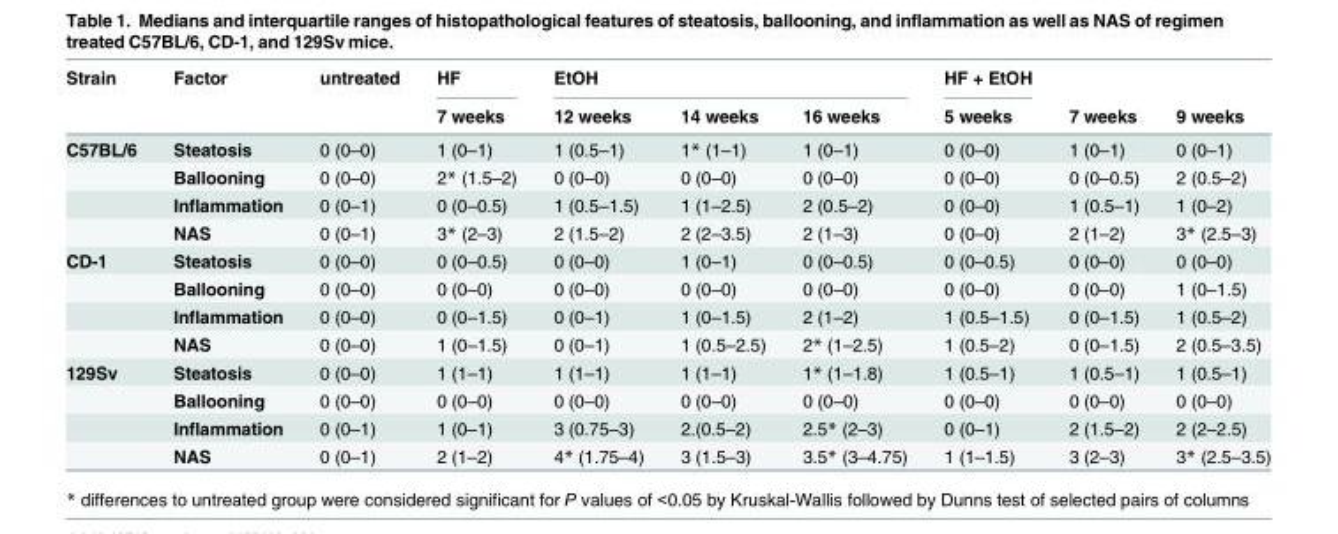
<table><thead><tr><td rowspan="2">Strain</td><td rowspan="2">Factor</td><td rowspan="2">untreated</td><td rowspan="2">HF 7 weeks</td><td colspan="3">EtOH</td><td rowspan="2">HF + EtOH 5 weeks</td><td rowspan="2">7 weeks</td><td rowspan="2">9 weeks</td></tr><tr><td>12 weeks</td><td>14 weeks</td><td>16 weeks</td></tr></thead><tbody><tr><td rowspan="4">C57BL/6</td><td>Steatosis</td><td>0 (0–0)</td><td>1 (0–1)</td><td>1 (0.5–1)</td><td>1* (1–1)</td><td>1 (0–1)</td><td>0 (0–0)</td><td>1 (0–1)</td><td>0 (0–1)</td></tr><tr><td>Ballooning</td><td>0 (0–0)</td><td>2* (1.5–2)</td><td>0 (0–0)</td><td>0 (0–0)</td><td>0 (0–0)</td><td>0 (0–0)</td><td>0 (0–0.5)</td><td>2 (0.5–2)</td></tr><tr><td>Inflammation</td><td>0 (0–1)</td><td>0 (0–0.5)</td><td>1 (0.5–1.5)</td><td>1 (1–2.5)</td><td>2 (0.5–2)</td><td>0 (0–0)</td><td>1 (0.5–1)</td><td>1 (0–2)</td></tr><tr><td>NAS</td><td>0 (0–1)</td><td>3* (2–3)</td><td>2 (1.5–2)</td><td>2 (2–3.5)</td><td>2 (1–3)</td><td>0 (0–0)</td><td>2 (1–2)</td><td>3* (2.5–3)</td></tr><tr><td rowspan="4">CD-1</td><td>Steatosis</td><td>0 (0–0)</td><td>0 (0–0.5)</td><td>0 (0–0)</td><td>1 (0–1)</td><td>0 (0–0.5)</td><td>0 (0–0.5)</td><td>0 (0–0)</td><td>0 (0–0)</td></tr><tr><td>Ballooning</td><td>0 (0–0)</td><td>0 (0–0)</td><td>0 (0–0)</td><td>0 (0–0)</td><td>0 (0–0)</td><td>0 (0–0)</td><td>0 (0–0)</td><td>1 (0–1.5)</td></tr><tr><td>Inflammation</td><td>0 (0–0)</td><td>0 (0–1.5)</td><td>0 (0–1)</td><td>1 (0–1.5)</td><td>2 (1–2)</td><td>1 (0.5–1.5)</td><td>0 (0–1.5)</td><td>1 (0.5–2)</td></tr><tr><td>NAS</td><td>0 (0–0)</td><td>1 (0–1.5)</td><td>0 (0–1)</td><td>1 (0.5–2.5)</td><td>2* (1–2.5)</td><td>1 (0.5–2)</td><td>0 (0–1.5)</td><td>2 (0.5–3.5)</td></tr><tr><td rowspan="4">129Sv</td><td>Steatosis</td><td>0 (0–0)</td><td>1 (1–1)</td><td>1 (1–1)</td><td>1 (1–1)</td><td>1* (1–1.8)</td><td>1 (0.5–1)</td><td>1 (0.5–1)</td><td>1 (0.5–1)</td></tr><tr><td>Ballooning</td><td>0 (0–0)</td><td>0 (0–0)</td><td>0 (0–0)</td><td>0 (0–0)</td><td>0 (0–0)</td><td>0 (0–0)</td><td>0 (0–0)</td><td>0 (0–0)</td></tr><tr><td>Inflammation</td><td>0 (0–1)</td><td>1 (0–1)</td><td>3 (0.75–3)</td><td>2.(0.5–2)</td><td>2.5* (2–3)</td><td>0 (0–1)</td><td>2 (1.5–2)</td><td>2 (2–2.5)</td></tr><tr><td>NAS</td><td>0 (0–1)</td><td>2 (1–2)</td><td>4* (1.75–4)</td><td>3 (1.5–3)</td><td>3.5* (3–4.75)</td><td>1 (1–1.5)</td><td>3 (2–3)</td><td>3* (2.5–3.5)</td></tr></tbody></table>